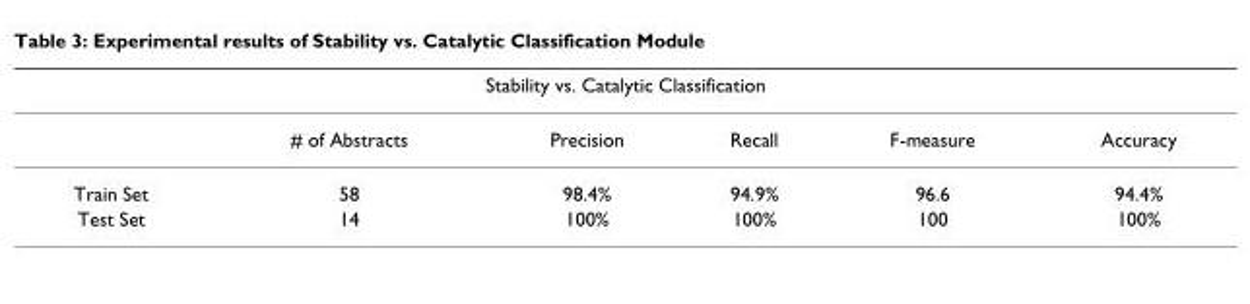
<table><thead><tr><td colspan="6">Stability vs. Catalytic Classification</td></tr><tr><td></td><td># of Abstracts</td><td>Precision</td><td>Recall</td><td>F-measure</td><td>Accuracy</td></tr></thead><tbody><tr><td>Train Set</td><td>58</td><td>98.4%</td><td>94.9%</td><td>96.6</td><td>94.4%</td></tr><tr><td>Test Set</td><td>14</td><td>100%</td><td>100%</td><td>100</td><td>100%</td></tr></tbody></table>